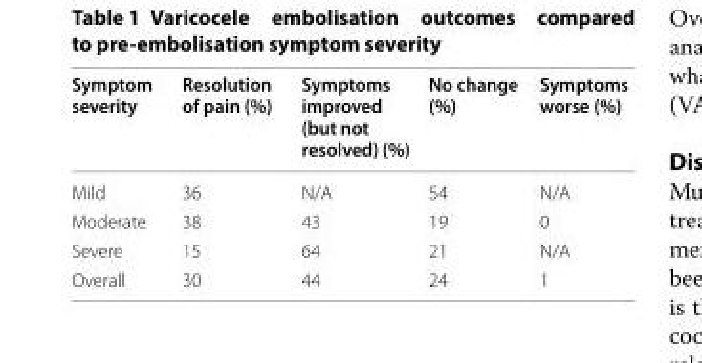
<table><thead><tr><td>Symptom severity</td><td>Resolution of pain (%)</td><td>Symptoms improved (but not resolved) (%)</td><td>No change (%)</td><td>Symptoms worse (%)</td></tr></thead><tbody><tr><td>Mild</td><td>36</td><td>N/A</td><td>54</td><td>N/A</td></tr><tr><td>Moderate</td><td>38</td><td>43</td><td>19</td><td>0</td></tr><tr><td>Severe</td><td>15</td><td>64</td><td>21</td><td>N/A</td></tr><tr><td>Overall</td><td>30</td><td>44</td><td>24</td><td>1</td></tr></tbody></table>